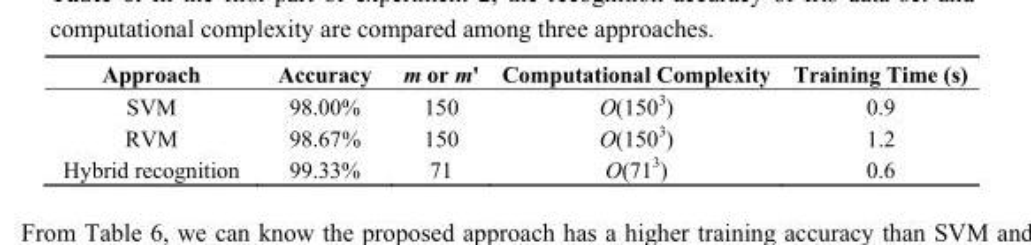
<table><thead><tr><td>Approach</td><td>Accuracy</td><td>m or m&#x27;</td><td>Computational Complexity</td><td>Training Time (s)</td></tr></thead><tbody><tr><td>SVM</td><td>98.00%</td><td>150</td><td>O(150<sup>3</sup>)</td><td>0.9</td></tr><tr><td>RVM</td><td>98.67%</td><td>150</td><td>O(150<sup>3</sup>)</td><td>1.2</td></tr><tr><td>Hybrid recognition</td><td>99.33%</td><td>71</td><td>O(71<sup>3</sup>)</td><td>0.6</td></tr></tbody></table>